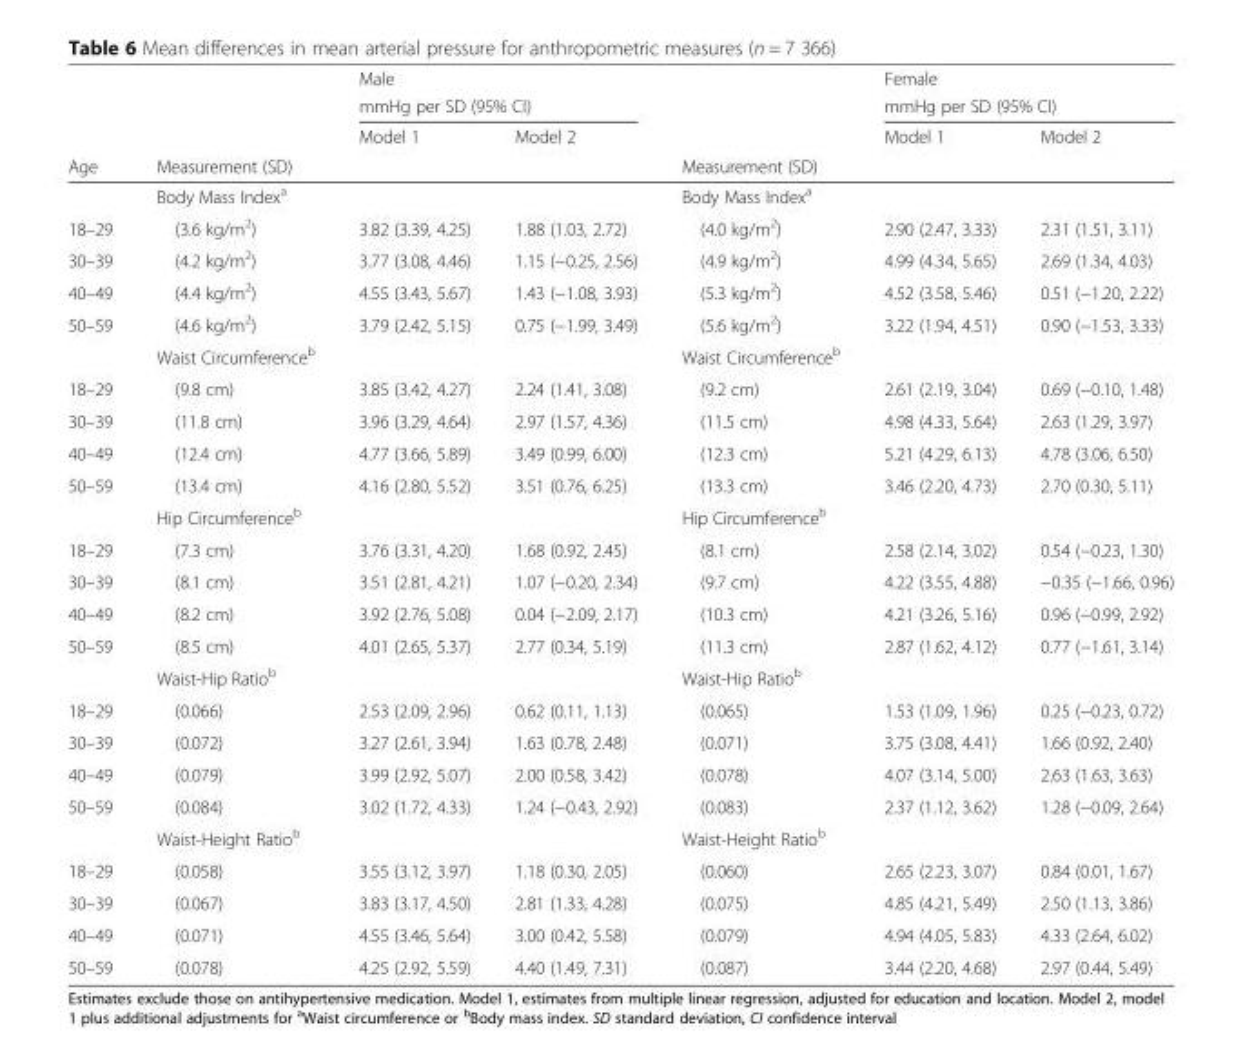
<table><thead><tr><td rowspan="4">Age</td><td rowspan="4">Measurement (SD)</td><td rowspan="2" colspan="2">Male mmHg per SD (95% CI)</td><td rowspan="4">Measurement (SD)</td><td rowspan="2" colspan="2">Female mmHg per SD (95% CI)</td></tr><tr></tr><tr><td rowspan="2">Model 1</td><td rowspan="2">Model 2</td><td rowspan="2">Model 1</td><td rowspan="2">Model 2</td></tr><tr></tr></thead><tbody><tr><td></td><td>Body Mass Index<sup>a</sup></td><td></td><td></td><td>Body Mass Index<sup>a</sup></td><td></td><td></td></tr><tr><td>18–29</td><td>(3.6 kg/m<sup>2</sup>)</td><td>3.82 (3.39, 4.25)</td><td>1.88 (1.03, 2.72)</td><td>(4.0 kg/m<sup>2</sup>)</td><td>2.90 (2.47, 3.33)</td><td>2.31 (1.51, 3.11)</td></tr><tr><td>30–39</td><td>(4.2 kg/m<sup>2</sup>)</td><td>3.77 (3.08, 4.46)</td><td>1.15 (−0.25, 2.56)</td><td>(4.9 kg/m<sup>2</sup>)</td><td>4.99 (4.34, 5.65)</td><td>2.69 (1.34, 4.03)</td></tr><tr><td>40–49</td><td>(4.4 kg/m<sup>2</sup>)</td><td>4.55 (3.43, 5.67)</td><td>1.43 (−1.08, 3.93)</td><td>(5.3 kg/m<sup>2</sup>)</td><td>4.52 (3.58, 5.46)</td><td>0.51 (−1.20, 2.22)</td></tr><tr><td rowspan="2">50–59</td><td>(4.6 kg/m<sup>2</sup>)</td><td>3.79 (2.42, 5.15)</td><td>0.75 (−1.99, 3.49)</td><td>(5.6 kg/m<sup>2</sup>)</td><td>3.22 (1.94, 4.51)</td><td>0.90 (−1.53, 3.33)</td></tr><tr><td>Waist Circumference<sup>b</sup></td><td></td><td></td><td>Waist Circumference<sup>b</sup></td><td></td><td></td></tr><tr><td>18–29</td><td>(9.8 cm)</td><td>3.85 (3.42, 4.27)</td><td>2.24 (1.41, 3.08)</td><td>(9.2 cm)</td><td>2.61 (2.19, 3.04)</td><td>0.69 (−0.10, 1.48)</td></tr><tr><td>30–39</td><td>(11.8 cm)</td><td>3.96 (3.29, 4.64)</td><td>2.97 (1.57, 4.36)</td><td>(11.5 cm)</td><td>4.98 (4.33, 5.64)</td><td>2.63 (1.29, 3.97)</td></tr><tr><td>40–49</td><td>(12.4 cm)</td><td>4.77 (3.66, 5.89)</td><td>3.49 (0.99, 6.00)</td><td>(12.3 cm)</td><td>5.21 (4.29, 6.13)</td><td>4.78 (3.06, 6.50)</td></tr><tr><td rowspan="2">50–59</td><td>(13.4 cm)</td><td>4.16 (2.80, 5.52)</td><td>3.51 (0.76, 6.25)</td><td>(13.3 cm)</td><td>3.46 (2.20, 4.73)</td><td>2.70 (0.30, 5.11)</td></tr><tr><td>Hip Circumference<sup>b</sup></td><td></td><td></td><td>Hip Circumference<sup>b</sup></td><td></td><td></td></tr><tr><td>18–29</td><td>(7.3 cm)</td><td>3.76 (3.31, 4.20)</td><td>1.68 (0.92, 2.45)</td><td>(8.1 cm)</td><td>2.58 (2.14, 3.02)</td><td>0.54 (−0.23, 1.30)</td></tr><tr><td>30–39</td><td>(8.1 cm)</td><td>3.51 (2.81, 4.21)</td><td>1.07 (−0.20, 2.34)</td><td>(9.7 cm)</td><td>4.22 (3.55, 4.88)</td><td>−0.35 (−1.66, 0.96)</td></tr><tr><td>40–49</td><td>(8.2 cm)</td><td>3.92 (2.76, 5.08)</td><td>0.04 (−2.09, 2.17)</td><td>(10.3 cm)</td><td>4.21 (3.26, 5.16)</td><td>0.96 (−0.99, 2.92)</td></tr><tr><td rowspan="2">50–59</td><td>(8.5 cm)</td><td>4.01 (2.65, 5.37)</td><td>2.77 (0.34, 5.19)</td><td>(11.3 cm)</td><td>2.87 (1.62, 4.12)</td><td>0.77 (−1.61, 3.14)</td></tr><tr><td>Waist-Hip Ratio<sup>b</sup></td><td></td><td></td><td>Waist-Hip Ratio<sup>b</sup></td><td></td><td></td></tr><tr><td>18–29</td><td>(0.066)</td><td>2.53 (2.09, 2.96)</td><td>0.62 (0.11, 1.13)</td><td>(0.065)</td><td>1.53 (1.09, 1.96)</td><td>0.25 (−0.23, 0.72)</td></tr><tr><td>30–39</td><td>(0.072)</td><td>3.27 (2.61, 3.94)</td><td>1.63 (0.78, 2.48)</td><td>(0.071)</td><td>3.75 (3.08, 4.41)</td><td>1.66 (0.92, 2.40)</td></tr><tr><td>40–49</td><td>(0.079)</td><td>3.99 (2.92, 5.07)</td><td>2.00 (0.58, 3.42)</td><td>(0.078)</td><td>4.07 (3.14, 5.00)</td><td>2.63 (1.63, 3.63)</td></tr><tr><td rowspan="2">50–59</td><td>(0.084)</td><td>3.02 (1.72, 4.33)</td><td>1.24 (−0.43, 2.92)</td><td>(0.083)</td><td>2.37 (1.12, 3.62)</td><td>1.28 (−0.09, 2.64)</td></tr><tr><td>Waist-Height Ratio<sup>b</sup></td><td></td><td></td><td>Waist-Height Ratio<sup>b</sup></td><td></td><td></td></tr><tr><td>18–29</td><td>(0.058)</td><td>3.55 (3.12, 3.97)</td><td>1.18 (0.30, 2.05)</td><td>(0.060)</td><td>2.65 (2.23, 3.07)</td><td>0.84 (0.01, 1.67)</td></tr><tr><td>30–39</td><td>(0.067)</td><td>3.83 (3.17, 4.50)</td><td>2.81 (1.33, 4.28)</td><td>(0.075)</td><td>4.85 (4.21, 5.49)</td><td>2.50 (1.13, 3.86)</td></tr><tr><td>40–49</td><td>(0.071)</td><td>4.55 (3.46, 5.64)</td><td>3.00 (0.42, 5.58)</td><td>(0.079)</td><td>4.94 (4.05, 5.83)</td><td>4.33 (2.64, 6.02)</td></tr><tr><td>50–59</td><td>(0.078)</td><td>4.25 (2.92, 5.59)</td><td>4.40 (1.49, 7.31)</td><td>(0.087)</td><td>3.44 (2.20, 4.68)</td><td>2.97 (0.44, 5.49)</td></tr></tbody></table>